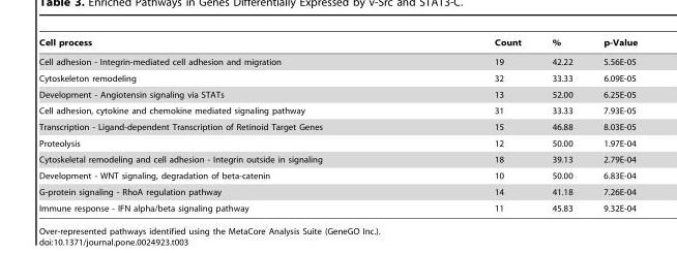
<table><thead><tr><td>Cell process</td><td>Count</td><td>%</td><td>p-Value</td></tr></thead><tbody><tr><td>Cell adhesion - Integrin-mediated cell adhesion and migration</td><td>19</td><td>42.22</td><td>5.56E-05</td></tr><tr><td>Cytoskeleton remodeling</td><td>32</td><td>33.33</td><td>6.09E-05</td></tr><tr><td>Development - Angiotensin signaling via STATs</td><td>13</td><td>52.00</td><td>6.25E-05</td></tr><tr><td>Cell adhesion, cytokine and chemokine mediated signaling pathway</td><td>31</td><td>33.33</td><td>7.93E-05</td></tr><tr><td>Transcription - Ligand-dependent Transcription of Retinoid Target Genes</td><td>15</td><td>46.88</td><td>8.03E-05</td></tr><tr><td>Proteolysis</td><td>12</td><td>50.00</td><td>1.97E-04</td></tr><tr><td>Cytoskeletal remodeling and cell adhesion - Integrin outside in signaling</td><td>18</td><td>39.13</td><td>2.79E-04</td></tr><tr><td>Development - WNT signaling, degradation of beta-catenin</td><td>10</td><td>50.00</td><td>6.83E-04</td></tr><tr><td>G-protein signaling - RhoA regulation pathway</td><td>14</td><td>41.18</td><td>7.26E-04</td></tr><tr><td>Immune response - IFN alpha/beta signaling pathway</td><td>11</td><td>45.83</td><td>9.32E-04</td></tr></tbody></table>